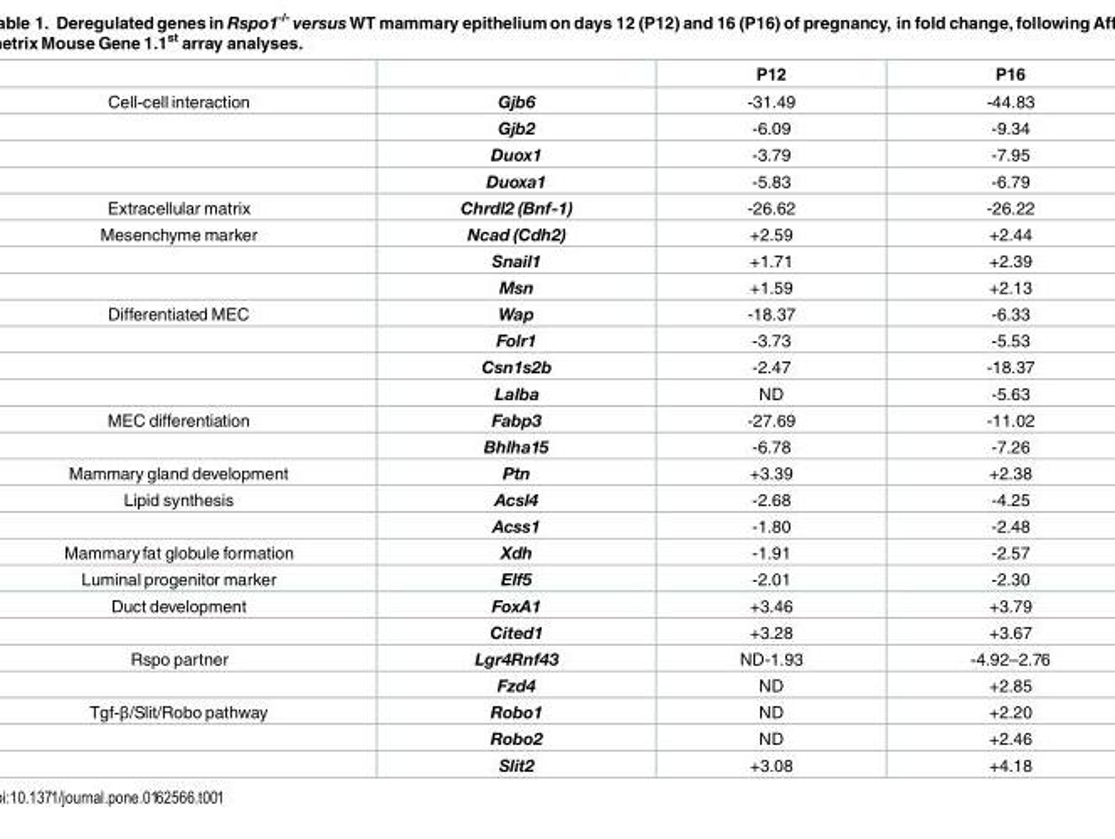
<table><thead><tr><td></td><td></td><td>P12</td><td>P16</td></tr></thead><tbody><tr><td rowspan="4">Cell-cell interaction</td><td>Gjb6</td><td>-31.49</td><td>-44.83</td></tr><tr><td>Gjb2</td><td>-6.09</td><td>-9.34</td></tr><tr><td>Duox1</td><td>-3.79</td><td>-7.95</td></tr><tr><td>Duoxa1</td><td>-5.83</td><td>-6.79</td></tr><tr><td>Extracellular matrix</td><td>Chrdl2 (Bnf-1)</td><td>-26.62</td><td>-26.22</td></tr><tr><td rowspan="3">Mesenchyme marker</td><td>Ncad (Cdh2)</td><td>+2.59</td><td>+2.44</td></tr><tr><td>Snail1</td><td>+1.71</td><td>+2.39</td></tr><tr><td>Msn</td><td>+1.59</td><td>+2.13</td></tr><tr><td rowspan="4">Differentiated MEC</td><td>Wap</td><td>-18.37</td><td>-6.33</td></tr><tr><td>Folr1</td><td>-3.73</td><td>-5.53</td></tr><tr><td>Csn1s2b</td><td>-2.47</td><td>-18.37</td></tr><tr><td>Lalba</td><td>ND</td><td>-5.63</td></tr><tr><td rowspan="2">MEC differentiation</td><td>Fabp3</td><td>-27.69</td><td>-11.02</td></tr><tr><td>Bhlha15</td><td>-6.78</td><td>-7.26</td></tr><tr><td>Mammary gland development</td><td>Ptn</td><td>+3.39</td><td>+2.38</td></tr><tr><td rowspan="2">Lipid synthesis</td><td>Acsl4</td><td>-2.68</td><td>-4.25</td></tr><tr><td>Acss1</td><td>-1.80</td><td>-2.48</td></tr><tr><td>Mammaryfat globule formation</td><td>Xdh</td><td>-1.91</td><td>-2.57</td></tr><tr><td>Luminal progenitor marker</td><td>Elf5</td><td>-2.01</td><td>-2.30</td></tr><tr><td rowspan="2">Duct development</td><td>FoxA1</td><td>+3.46</td><td>+3.79</td></tr><tr><td>Cited1</td><td>+3.28</td><td>+3.67</td></tr><tr><td rowspan="2">Rspo partner</td><td>Lgr4Rnf43</td><td>ND-1.93</td><td>-4.92–2.76</td></tr><tr><td>Fzd4</td><td>ND</td><td>+2.85</td></tr><tr><td rowspan="3">Tgf-β/Slit/Robo pathway</td><td>Robo1</td><td>ND</td><td>+2.20</td></tr><tr><td>Robo2</td><td>ND</td><td>+2.46</td></tr><tr><td>Slit2</td><td>+3.08</td><td>+4.18</td></tr></tbody></table>